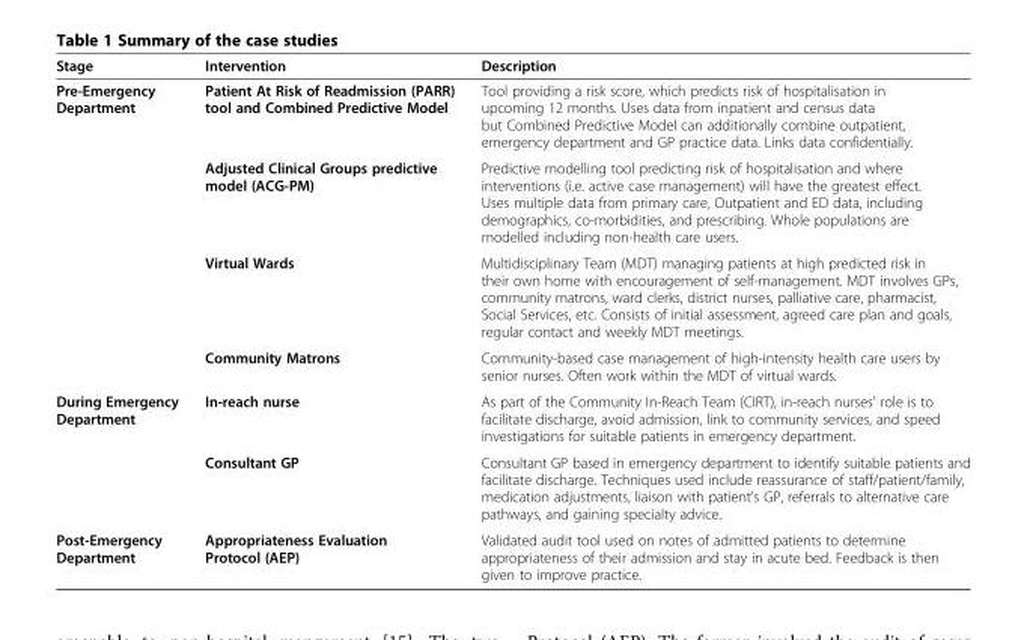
<table><thead><tr><td>Stage</td><td>Intervention</td><td>Description</td></tr></thead><tbody><tr><td rowspan="4">Pre-Emergency Department</td><td>Patient At Risk of Readmission (PARR) tool and Combined Predictive Model</td><td>Tool providing a risk score, which predicts risk of hospitalisation in upcoming 12 months. Uses data from inpatient and census data but Combined Predictive Model can additionally combine outpatient, emergency department and GP practice data. Links data confidentially.</td></tr><tr><td>Adjusted Clinical Groups predictive model (ACG-PM)</td><td>Predictive modelling tool predicting risk of hospitalisation and where interventions (i.e. active case management) will have the greatest effect. Uses multiple data from primary care, Outpatient and ED data, including demographics, co-morbidities, and prescribing. Whole populations are modelled including non-health care users.</td></tr><tr><td>Virtual Wards</td><td>Multidisciplinary Team (MDT) managing patients at high predicted risk in their own home with encouragement of self-management. MDT involves GPs, community matrons, ward clerks, district nurses, palliative care, pharmacist, Social Services, etc. Consists of initial assessment, agreed care plan and goals, regular contact and weekly MDT meetings.</td></tr><tr><td>Community Matrons</td><td>Community-based case management of high-intensity health care users by senior nurses. Often work within the MDT of virtual wards.</td></tr><tr><td rowspan="2">During Emergency Department</td><td>In-reach nurse</td><td>As part of the Community In-Reach Team (CIRT), in-reach nurses&#x27; role is to facilitate discharge, avoid admission, link to community services, and speed investigations for suitable patients in emergency department.</td></tr><tr><td>Consultant GP</td><td>Consultant GP based in emergency department to identify suitable patients and facilitate discharge. Techniques used include reassurance of staff/patient/family, medication adjustments, liaison with patient&#x27;s GP, referrals to alternative care pathways, and gaining specialty advice.</td></tr><tr><td>Post-Emergency Department</td><td>Appropriateness Evaluation Protocol (AEP)</td><td>Validated audit tool used on notes of admitted patients to determine appropriateness of their admission and stay in acute bed. Feedback is then given to improve practice.</td></tr></tbody></table>